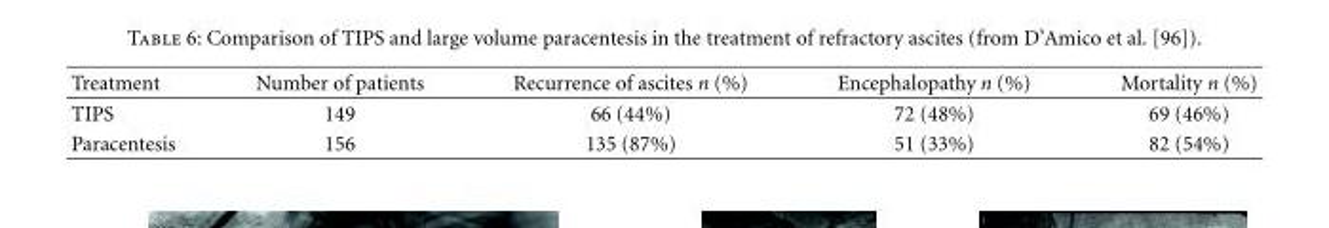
<table><thead><tr><td>Treatment</td><td>Number of patients</td><td>Recurrence of ascites n (%)</td><td>Encephalopathy n (%)</td><td>Mortality n (%)</td></tr></thead><tbody><tr><td>TIPS</td><td>149</td><td>66 (44%)</td><td>72 (48%)</td><td>69 (46%)</td></tr><tr><td>Paracentesis</td><td>156</td><td>135 (87%)</td><td>51 (33%)</td><td>82 (54%)</td></tr></tbody></table>